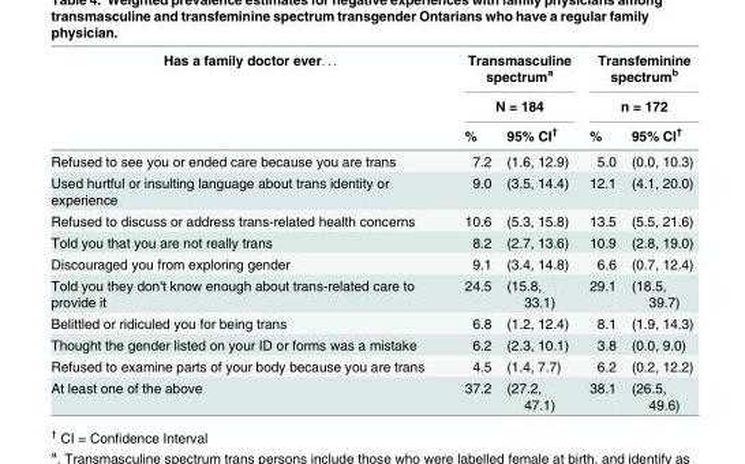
<table><thead><tr><td rowspan="3">Has a family doctor ever. . .</td><td rowspan="2" colspan="2">Transmasculine spectrum<sup>a</sup> N = 184</td><td rowspan="2" colspan="2">Transfeminine spectrum<sup>b</sup> n = 172</td></tr><tr></tr><tr><td>%</td><td>95% CI<sup>†</sup></td><td>%</td><td>95% CI<sup>†</sup></td></tr></thead><tbody><tr><td>Refused to see you or ended care because you are trans</td><td>7.2</td><td>(1.6, 12.9)</td><td>5.0</td><td>(0.0, 10.3)</td></tr><tr><td>Used hurtful or insulting language about trans identity or experience</td><td>9.0</td><td>(3.5, 14.4)</td><td>12.1</td><td>(4.1, 20.0)</td></tr><tr><td>Refused to discuss or address trans-related health concerns</td><td>10.6</td><td>(5.3, 15.8)</td><td>13.5</td><td>(5.5, 21.6)</td></tr><tr><td>Told you that you are not really trans</td><td>8.2</td><td>(2.7, 13.6)</td><td>10.9</td><td>(2.8, 19.0)</td></tr><tr><td>Discouraged you from exploring gender</td><td>9.1</td><td>(3.4, 14.8)</td><td>6.6</td><td>(0.7, 12.4)</td></tr><tr><td>Told you they don&#x27;t know enough about trans-related care to provide it</td><td>24.5</td><td>(15.8, 33.1)</td><td>29.1</td><td>(18.5, 39.7)</td></tr><tr><td>Belittled or ridiculed you for being trans</td><td>6.8</td><td>(1.2, 12.4)</td><td>8.1</td><td>(1.9, 14.3)</td></tr><tr><td>Thought the gender listed on your ID or forms was a mistake</td><td>6.2</td><td>(2.3, 10.1)</td><td>3.8</td><td>(0.0, 9.0)</td></tr><tr><td>Refused to examine parts of your body because you are trans</td><td>4.5</td><td>(1.4, 7.7)</td><td>6.2</td><td>(0.2, 12.2)</td></tr><tr><td>At least one of the above</td><td>37.2</td><td>(27.2, 47.1)</td><td>38.1</td><td>(26.5, 49.6)</td></tr></tbody></table>